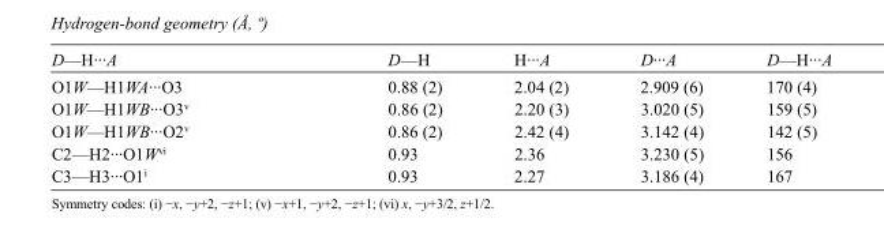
<table><tbody><tr><td>D—H···A</td><td>D—H</td><td>H···A</td><td>D···A</td><td>D—H···A</td></tr><tr><td>O1W—H1WA···O3</td><td>0.88 (2)</td><td>2.04 (2)</td><td>2.909 (6)</td><td>170 (4)</td></tr><tr><td>O1W—H1WB···O3<sup>v</sup></td><td>0.86 (2)</td><td>2.20 (3)</td><td>3.020 (5)</td><td>159 (5)</td></tr><tr><td>O1W—H1WB···O2<sup>v</sup></td><td>0.86 (2)</td><td>2.42 (4)</td><td>3.142 (4)</td><td>142 (5)</td></tr><tr><td>C2—H2···O1W<sup>vi</sup></td><td>0.93</td><td>2.36</td><td>3.230 (5)</td><td>156</td></tr><tr><td>C3—H3···O1<sup>i</sup></td><td>0.93</td><td>2.27</td><td>3.186 (4)</td><td>167</td></tr></tbody></table>